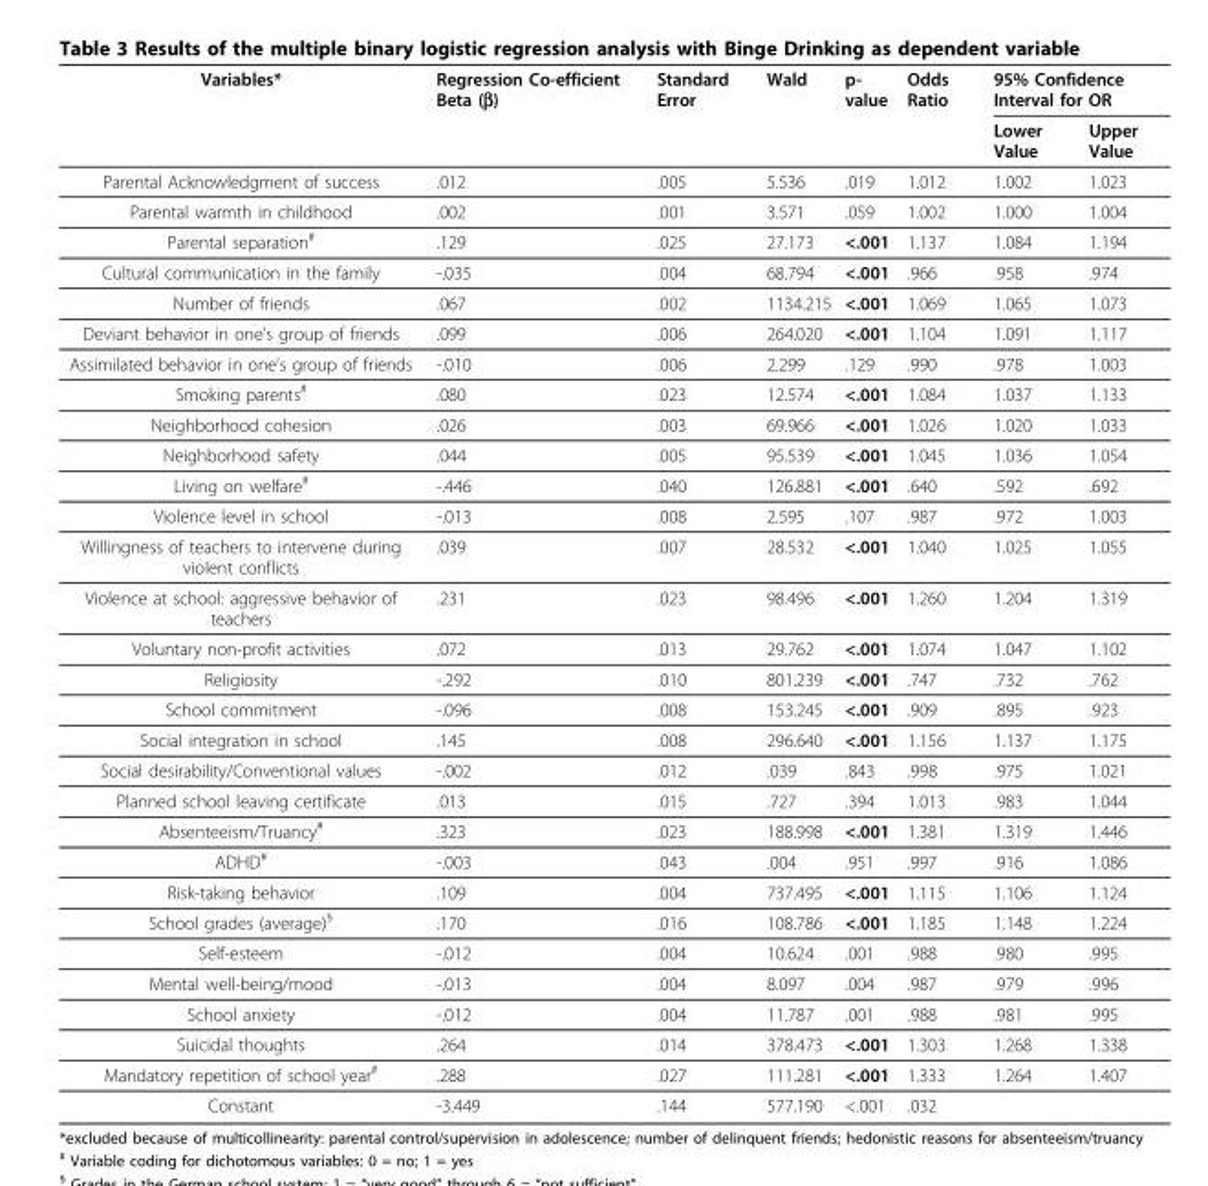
<table><thead><tr><td rowspan="2">Variables*</td><td rowspan="2">Regression Co-efficient Beta (β)</td><td rowspan="2">Standard Error</td><td rowspan="2">Wald</td><td rowspan="2">p- value</td><td rowspan="2">Odds Ratio</td><td colspan="2">95% Confidence Interval for OR</td></tr><tr><td>Lower Value</td><td>Upper Value</td></tr></thead><tbody><tr><td>Parental Acknowledgment of success</td><td>.012</td><td>.005</td><td>5.536</td><td>.019</td><td>1.012</td><td>1.002</td><td>1.023</td></tr><tr><td>Parental warmth in childhood</td><td>.002</td><td>.001</td><td>3.571</td><td>.059</td><td>1.002</td><td>1.000</td><td>1.004</td></tr><tr><td>Parental separation<sup>#</sup></td><td>.129</td><td>.025</td><td>27.173</td><td>&lt;.001</td><td>1.137</td><td>1.084</td><td>1.194</td></tr><tr><td>Cultural communication in the family</td><td>-.035</td><td>.004</td><td>68.794</td><td>&lt;.001</td><td>.966</td><td>.958</td><td>.974</td></tr><tr><td>Number of friends</td><td>.067</td><td>.002</td><td>1134.215</td><td>&lt;.001</td><td>1.069</td><td>1.065</td><td>1.073</td></tr><tr><td>Deviant behavior in one’s group of friends</td><td>.099</td><td>.006</td><td>264.020</td><td>&lt;.001</td><td>1.104</td><td>1.091</td><td>1.117</td></tr><tr><td>Assimilated behavior in one’s group of friends</td><td>-.010</td><td>.006</td><td>2.299</td><td>.129</td><td>.990</td><td>.978</td><td>1.003</td></tr><tr><td>Smoking parents<sup>#</sup></td><td>.080</td><td>.023</td><td>12.574</td><td>&lt;.001</td><td>1.084</td><td>1.037</td><td>1.133</td></tr><tr><td>Neighborhood cohesion</td><td>.026</td><td>.003</td><td>69.966</td><td>&lt;.001</td><td>1.026</td><td>1.020</td><td>1.033</td></tr><tr><td>Neighborhood safety</td><td>.044</td><td>.005</td><td>95.539</td><td>&lt;.001</td><td>1.045</td><td>1.036</td><td>1.054</td></tr><tr><td>Living on welfare<sup>#</sup></td><td>-.446</td><td>.040</td><td>126.881</td><td>&lt;.001</td><td>.640</td><td>.592</td><td>.692</td></tr><tr><td>Violence level in school</td><td>-.013</td><td>.008</td><td>2.595</td><td>.107</td><td>.987</td><td>.972</td><td>1.003</td></tr><tr><td>Willingness of teachers to intervene during violent conflicts</td><td>.039</td><td>.007</td><td>28.532</td><td>&lt;.001</td><td>1.040</td><td>1.025</td><td>1.055</td></tr><tr><td>Violence at school: aggressive behavior of teachers</td><td>.231</td><td>.023</td><td>98.496</td><td>&lt;.001</td><td>1.260</td><td>1.204</td><td>1.319</td></tr><tr><td>Voluntary non-profit activities</td><td>.072</td><td>.013</td><td>29.762</td><td>&lt;.001</td><td>1.074</td><td>1.047</td><td>1.102</td></tr><tr><td>Religiosity</td><td>-.292</td><td>.010</td><td>801.239</td><td>&lt;.001</td><td>.747</td><td>.732</td><td>.762</td></tr><tr><td>School commitment</td><td>-.096</td><td>.008</td><td>153.245</td><td>&lt;.001</td><td>.909</td><td>.895</td><td>.923</td></tr><tr><td>Social integration in school</td><td>.145</td><td>.008</td><td>296.640</td><td>&lt;.001</td><td>1.156</td><td>1.137</td><td>1.175</td></tr><tr><td>Social desirability/Conventional values</td><td>-.002</td><td>.012</td><td>.039</td><td>.843</td><td>.998</td><td>.975</td><td>1.021</td></tr><tr><td>Planned school leaving certificate</td><td>.013</td><td>.015</td><td>.727</td><td>.394</td><td>1.013</td><td>.983</td><td>1.044</td></tr><tr><td>Absenteeism/Truancy<sup>#</sup></td><td>.323</td><td>.023</td><td>188.998</td><td>&lt;.001</td><td>1.381</td><td>1.319</td><td>1.446</td></tr><tr><td>ADHD<sup>#</sup></td><td>-.003</td><td>.043</td><td>.004</td><td>.951</td><td>.997</td><td>.916</td><td>1.086</td></tr><tr><td>Risk-taking behavior</td><td>.109</td><td>.004</td><td>737.495</td><td>&lt;.001</td><td>1.115</td><td>1.106</td><td>1.124</td></tr><tr><td>School grades (average)<sup>§</sup></td><td>.170</td><td>.016</td><td>108.786</td><td>&lt;.001</td><td>1.185</td><td>1.148</td><td>1.224</td></tr><tr><td>Self-esteem</td><td>-.012</td><td>.004</td><td>10.624</td><td>.001</td><td>.988</td><td>.980</td><td>.995</td></tr><tr><td>Mental well-being/mood</td><td>-.013</td><td>.004</td><td>8.097</td><td>.004</td><td>.987</td><td>.979</td><td>.996</td></tr><tr><td>School anxiety</td><td>-.012</td><td>.004</td><td>11.787</td><td>.001</td><td>.988</td><td>.981</td><td>.995</td></tr><tr><td>Suicidal thoughts</td><td>.264</td><td>.014</td><td>378.473</td><td>&lt;.001</td><td>1.303</td><td>1.268</td><td>1.338</td></tr><tr><td>Mandatory repetition of school year<sup>#</sup></td><td>.288</td><td>.027</td><td>111.281</td><td>&lt;.001</td><td>1.333</td><td>1.264</td><td>1.407</td></tr><tr><td>Constant</td><td>-3.449</td><td>.144</td><td>577.190</td><td>&lt;.001</td><td>.032</td><td></td><td></td></tr></tbody></table>